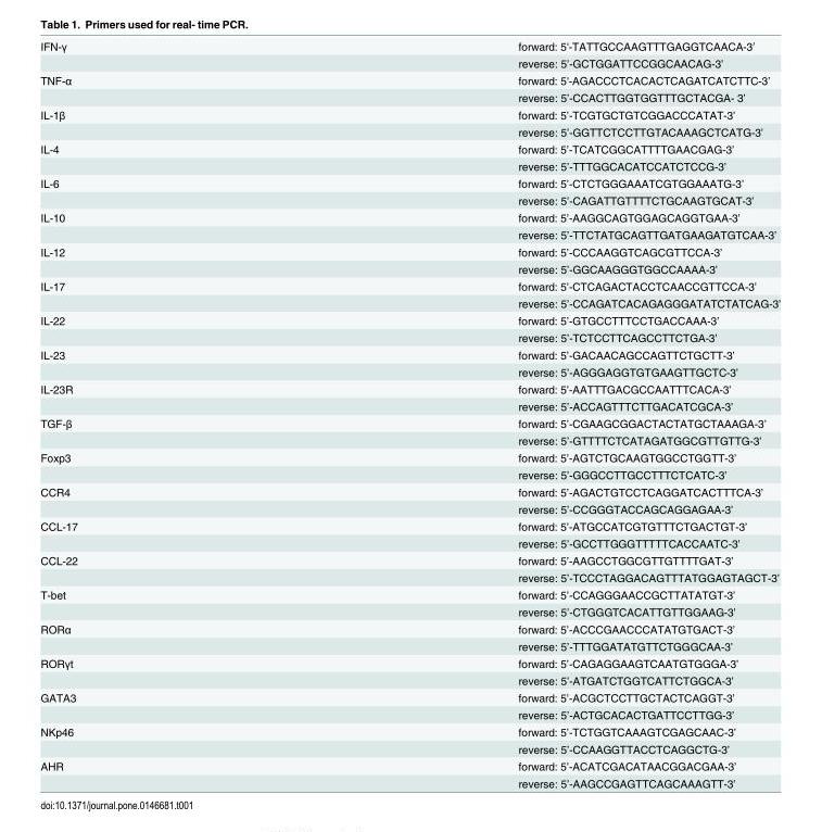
<table><tbody><tr><td rowspan="2">IFN-γ</td><td>forward: 5&#x27;-TATTGCCAAGTTTGAGGTCAACA-3ʹ</td></tr><tr><td>reverse: 5’-GCTGGATTCCGGCAACAG-3’</td></tr><tr><td rowspan="2">TNF-α</td><td>forward: 5&#x27;-AGACCCTCACACTCAGATCATCTTC-3’</td></tr><tr><td>reverse: 5’-CCACTTGGTGGTTTGCTACGA- 3’</td></tr><tr><td rowspan="2">IL-1β</td><td>forward: 5’-TCGTGCTGTCGGACCCATAT-3’</td></tr><tr><td>reverse: 5’-GGTTCTCCTTGTACAAAGCTCATG-3’</td></tr><tr><td rowspan="2">IL-4</td><td>forward: 5’-TCATCGGCATTTTGAACGAG-3’</td></tr><tr><td>reverse: 5’-TTTGGCACATCCATCTCCG-3’</td></tr><tr><td rowspan="2">IL-6</td><td>forward: 5’-CTCTGGGAAATCGTGGAAATG-3’</td></tr><tr><td>reverse: 5’-CAGATTGTTTTCTGCAAGTGCAT-3’</td></tr><tr><td rowspan="2">IL-10</td><td>forward: 5’-AAGGCAGTGGAGCAGGTGAA-3’</td></tr><tr><td>reverse: 5’-TTCTATGCAGTTGATGAAGATGTCAA-3’</td></tr><tr><td rowspan="2">IL-12</td><td>forward: 5’-CCCAAGGTCAGCGTTCCA-3’</td></tr><tr><td>reverse: 5’-GGCAAGGGTGGCCAAAA-3’</td></tr><tr><td rowspan="2">IL-17</td><td>forward: 5’-CTCAGACTACCTCAACCGTTCCA-3’</td></tr><tr><td>reverse: 5’-CCAGATCACAGAGGGATATCTATCAG-3’</td></tr><tr><td rowspan="2">IL-22</td><td>forward: 5’-GTGCCTTTCCTGACCAAA-3’</td></tr><tr><td>reverse: 5’-TCTCCTTCAGCCTTCTGA-3’</td></tr><tr><td rowspan="2">IL-23</td><td>forward: 5’-GACAACAGCCAGTTCTGCTT-3’</td></tr><tr><td>reverse: 5’-AGGGAGGTGTGAAGTTGCTC-3’</td></tr><tr><td rowspan="2">IL-23R</td><td>forward: 5’-AATTTGACGCCAATTTCACA-3’</td></tr><tr><td>reverse: 5’-ACCAGTTTCTTGACATCGCA-3’</td></tr><tr><td rowspan="2">TGF-β</td><td>forward: 5’-CGAAGCGGACTACTATGCTAAAGA-3’</td></tr><tr><td>reverse: 5’-GTTTTCTCATAGATGGCGTTGTTG-3’</td></tr><tr><td rowspan="2">Foxp3</td><td>forward: 5’-AGTCTGCAAGTGGCCTGGTT-3’</td></tr><tr><td>reverse: 5’-GGGCCTTGCCTTTCTCATC-3’</td></tr><tr><td rowspan="2">CCR4</td><td>forward: 5’-AGACTGTCCTCAGGATCACTTTCA-3’</td></tr><tr><td>reverse: 5’-CCGGGTACCAGCAGGAGAA-3’</td></tr><tr><td rowspan="2">CCL-17</td><td>forward: 5’-ATGCCATCGTGTTTCTGACTGT-3’</td></tr><tr><td>reverse: 5’-GCCTTGGGTTTTTCACCAATC-3’</td></tr><tr><td rowspan="2">CCL-22</td><td>forward: 5’-AAGCCTGGCGTTGTTTTGAT-3’</td></tr><tr><td>reverse: 5’-TCCCTAGGACAGTTTATGGAGTAGCT-3’</td></tr><tr><td rowspan="2">T-bet</td><td>forward: 5’-CCAGGGAACCGCTTATATGT-3’</td></tr><tr><td>reverse: 5’-CTGGGTCACATTGTTGGAAG-3’</td></tr><tr><td rowspan="2">RORα</td><td>forward: 5’-ACCCGAACCCATATGTGACT-3’</td></tr><tr><td>reverse: 5’-TTTGGATATGTTCTGGGCAA-3’</td></tr><tr><td rowspan="2">RORγt</td><td>forward: 5’-CAGAGGAAGTCAATGTGGGA-3’</td></tr><tr><td>reverse: 5’-ATGATCTGGTCATTCTGGCA-3’</td></tr><tr><td rowspan="2">GATA3</td><td>forward: 5’-ACGCTCCTTGCTACTCAGGT-3’</td></tr><tr><td>reverse: 5’-ACTGCACACTGATTCCTTGG-3’</td></tr><tr><td rowspan="2">NKp46</td><td>forward: 5’-TCTGGTCAAAGTCGAGCAAC-3’</td></tr><tr><td>reverse: 5’-CCAAGGTTACCTCAGGCTG-3’</td></tr><tr><td rowspan="2">AHR</td><td>forward: 5’-ACATCGACATAACGGACGAA-3’</td></tr><tr><td>reverse: 5’-AAGCCGAGTTCAGCAAAGTT-3’</td></tr></tbody></table>